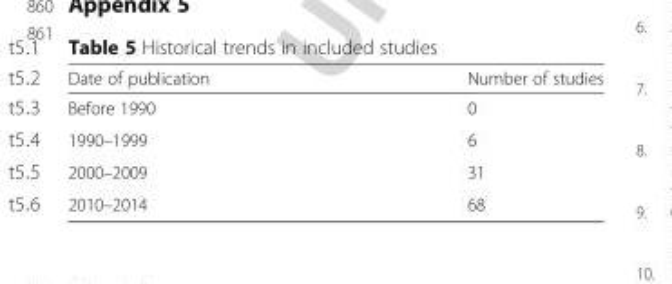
<table><thead><tr><td>Date of publication</td><td>Number of studies</td></tr></thead><tbody><tr><td>Before 1990</td><td>0</td></tr><tr><td>1990–1999</td><td>6</td></tr><tr><td>2000–2009</td><td>31</td></tr><tr><td>2010–2014</td><td>68</td></tr></tbody></table>